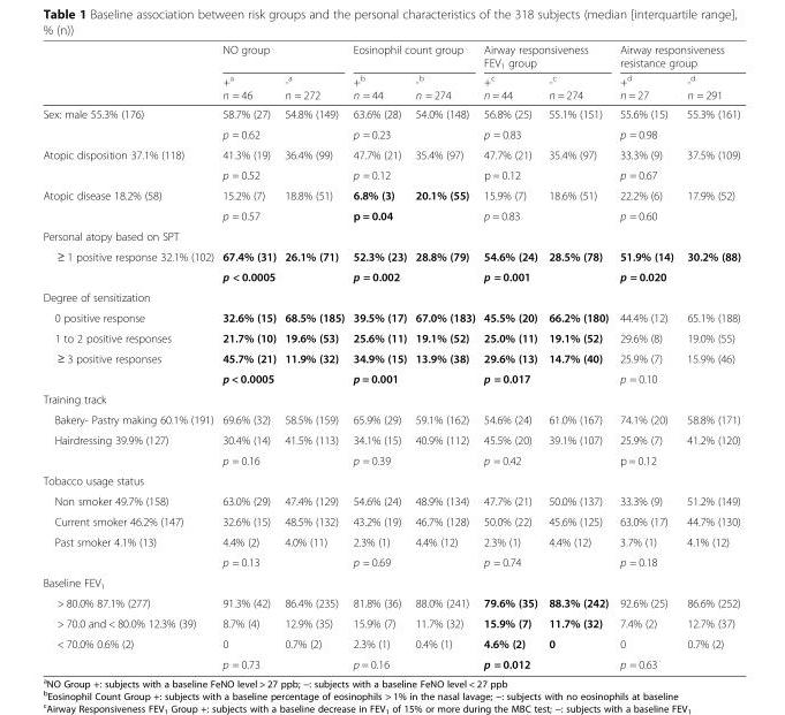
<table><thead><tr><td rowspan="2"></td><td colspan="2">NO group</td><td colspan="2">Eosinophil count group</td><td colspan="2">Airway responsiveness FEV<sub>1</sub> group</td><td colspan="2">Airway responsiveness resistance group</td></tr><tr><td>+<sup>a</sup> n = 46</td><td>-<sup>a</sup> n = 272</td><td>+<sup>b</sup> n = 44</td><td>-<sup>b</sup> n = 274</td><td>+<sup>c</sup> n = 44</td><td>-<sup>c</sup> n = 274</td><td>+<sup>d</sup> n = 27</td><td>-<sup>d</sup> n = 291</td></tr></thead><tbody><tr><td rowspan="2">Sex: male 55.3% (176)</td><td>58.7% (27)</td><td>54.8% (149)</td><td>63.6% (28)</td><td>54.0% (148)</td><td>56.8% (25)</td><td>55.1% (151)</td><td>55.6% (15)</td><td>55.3% (161)</td></tr><tr><td colspan="2">p = 0.62</td><td colspan="2">p = 0.23</td><td colspan="2">p = 0.83</td><td colspan="2">p = 0.98</td></tr><tr><td rowspan="2">Atopic disposition 37.1% (118)</td><td>41.3% (19)</td><td>36.4% (99)</td><td>47.7% (21)</td><td>35.4% (97)</td><td>47.7% (21)</td><td>35.4% (97)</td><td>33.3% (9)</td><td>37.5% (109)</td></tr><tr><td colspan="2">p = 0.52</td><td colspan="2">p = 0.12</td><td colspan="2">p = 0.12</td><td colspan="2">p = 0.67</td></tr><tr><td rowspan="2">Atopic disease 18.2% (58)</td><td>15.2% (7)</td><td>18.8% (51)</td><td>6.8% (3)</td><td>20.1% (55)</td><td>15.9% (7)</td><td>18.6% (51)</td><td>22.2% (6)</td><td>17.9% (52)</td></tr><tr><td colspan="2">p = 0.57</td><td colspan="2">p = 0.04</td><td colspan="2">p = 0.83</td><td colspan="2">p = 0.60</td></tr><tr><td colspan="9">Personal atopy based on SPT</td></tr><tr><td rowspan="2">≥ 1 positive response 32.1% (102)</td><td>67.4% (31)</td><td>26.1% (71)</td><td>52.3% (23)</td><td>28.8% (79)</td><td>54.6% (24)</td><td>28.5% (78)</td><td>51.9% (14)</td><td>30.2% (88)</td></tr><tr><td colspan="2">p &lt; 0.0005</td><td colspan="2">p = 0.002</td><td colspan="2">p = 0.001</td><td colspan="2">p = 0.020</td></tr><tr><td colspan="9">Degree of sensitization</td></tr><tr><td>0 positive response</td><td>32.6% (15)</td><td>68.5% (185)</td><td>39.5% (17)</td><td>67.0% (183)</td><td>45.5% (20)</td><td>66.2% (180)</td><td>44.4% (12)</td><td>65.1% (188)</td></tr><tr><td>1 to 2 positive responses</td><td>21.7% (10)</td><td>19.6% (53)</td><td>25.6% (11)</td><td>19.1% (52)</td><td>25.0% (11)</td><td>19.1% (52)</td><td>29.6% (8)</td><td>19.0% (55)</td></tr><tr><td rowspan="2">≥ 3 positive responses</td><td>45.7% (21)</td><td>11.9% (32)</td><td>34.9% (15)</td><td>13.9% (38)</td><td>29.6% (13)</td><td>14.7% (40)</td><td>25.9% (7)</td><td>15.9% (46)</td></tr><tr><td colspan="2">p &lt; 0.0005</td><td colspan="2">p = 0.001</td><td colspan="2">p = 0.017</td><td colspan="2">p = 0.10</td></tr><tr><td colspan="9">Training track</td></tr><tr><td>Bakery- Pastry making 60.1% (191)</td><td>69.6% (32)</td><td>58.5% (159)</td><td>65.9% (29)</td><td>59.1% (162)</td><td>54.6% (24)</td><td>61.0% (167)</td><td>74.1% (20)</td><td>58.8% (171)</td></tr><tr><td rowspan="2">Hairdressing 39.9% (127)</td><td>30.4% (14)</td><td>41.5% (113)</td><td>34.1% (15)</td><td>40.9% (112)</td><td>45.5% (20)</td><td>39.1% (107)</td><td>25.9% (7)</td><td>41.2% (120)</td></tr><tr><td colspan="2">p = 0.16</td><td colspan="2">p = 0.39</td><td colspan="2">p = 0.42</td><td colspan="2">p = 0.12</td></tr><tr><td colspan="9">Tobacco usage status</td></tr><tr><td>Non smoker 49.7% (158)</td><td>63.0% (29)</td><td>47.4% (129)</td><td>54.6% (24)</td><td>48.9% (134)</td><td>47.7% (21)</td><td>50.0% (137)</td><td>33.3% (9)</td><td>51.2% (149)</td></tr><tr><td>Current smoker 46.2% (147)</td><td>32.6% (15)</td><td>48.5% (132)</td><td>43.2% (19)</td><td>46.7% (128)</td><td>50.0% (22)</td><td>45.6% (125)</td><td>63.0% (17)</td><td>44.7% (130)</td></tr><tr><td rowspan="2">Past smoker 4.1% (13)</td><td>4.4% (2)</td><td>4.0% (11)</td><td>2.3% (1)</td><td>4.4% (12)</td><td>2.3% (1)</td><td>4.4% (12)</td><td>3.7% (1)</td><td>4.1% (12)</td></tr><tr><td colspan="2">p = 0.13</td><td colspan="2">p = 0.69</td><td colspan="2">p = 0.74</td><td colspan="2">p = 0.18</td></tr><tr><td colspan="9">Baseline FEV<sub>1</sub></td></tr><tr><td>&gt; 80.0% 87.1% (277)</td><td>91.3% (42)</td><td>86.4% (235)</td><td>81.8% (36)</td><td>88.0% (241)</td><td>79.6% (35)</td><td>88.3% (242)</td><td>92.6% (25)</td><td>86.6% (252)</td></tr><tr><td>&gt; 70.0 and &lt; 80.0% 12.3% (39)</td><td>8.7% (4)</td><td>12.9% (35)</td><td>15.9% (7)</td><td>11.7% (32)</td><td>15.9% (7)</td><td>11.7% (32)</td><td>7.4% (2)</td><td>12.7% (37)</td></tr><tr><td rowspan="2">&lt; 70.0% 0.6% (2)</td><td>0</td><td>0.7% (2)</td><td>2.3% (1)</td><td>0.4% (1)</td><td>4.6% (2)</td><td>0</td><td>0</td><td>0.7% (2)</td></tr><tr><td colspan="2">p = 0.73</td><td colspan="2">p = 0.16</td><td colspan="2">p = 0.012</td><td colspan="2">p = 0.63</td></tr></tbody></table>